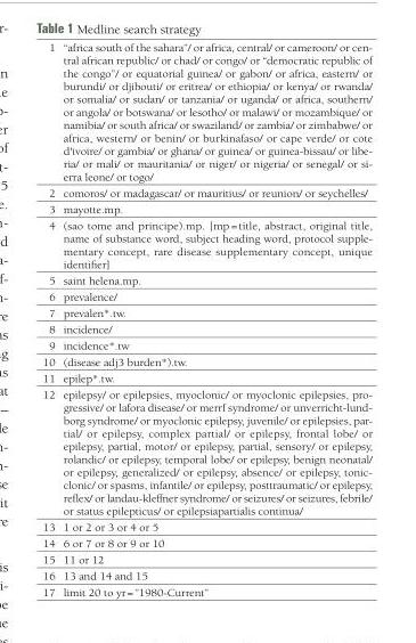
<table><tbody><tr><td>1</td><td>“africa south of the sahara”/ or africa, central/ or cameroon/ or cen- tral african republic/ or chad/ or congo/ or “democratic republic of the congo”/ or equatorial guinea/ or gabon/ or africa, eastern/ or burundi/ or djibouti/ or eritrea/ or ethiopia/ or kenya/ or rwanda/ or somalia/ or sudan/ or tanzania/ or uganda/ or africa, southern/ or angola/ or botswana/ or lesotho/ or malawi/ or mozambique/ or namibia/ or south africa/ or swaziland/ or zambia/ or zimbabwe/ or africa, western/ or benin/ or burkinafaso/ or cape verde/ or cote d&#x27;ivoire/ or gambia/ or ghana/ or guinea/ or guinea-bissau/ or libe- ria/ or mali/ or mauritania/ or niger/ or nigeria/ or senegal/ or si- erra leone/ or togo/</td></tr><tr><td>2</td><td>comoros/ or madagascar/ or mauritius/ or reunion/ or seychelles/</td></tr><tr><td>3</td><td>mayotte.mp.</td></tr><tr><td>4</td><td>(sao tome and principe).mp. [mp = title, abstract, original title, name of substance word, subject heading word, protocol supple- mentary concept, rare disease supplementary concept, unique identifier]</td></tr><tr><td>5</td><td>saint helena.mp.</td></tr><tr><td>6</td><td>prevalence/</td></tr><tr><td>7</td><td>prevalen*.tw.</td></tr><tr><td>8</td><td>incidence/</td></tr><tr><td>9</td><td>incidence*.tw</td></tr><tr><td>10</td><td>(disease adj3 burden*).tw.</td></tr><tr><td>11</td><td>epilep*.tw.</td></tr><tr><td>12</td><td>epilepsy/ or epilepsies, myoclonic/ or myoclonic epilepsies, pro- gressive/ or lafora disease/ or merrf syndrome/ or unverricht-lund- borg syndrome/ or myoclonic epilepsy, juvenile/ or epilepsies, par- tial/ or epilepsy, complex partial/ or epilepsy, frontal lobe/ or epilepsy, partial, motor/ or epilepsy, partial, sensory/ or epilepsy, rolandic/ or epilepsy, temporal lobe/ or epilepsy, benign neonatal/ or epilepsy, generalized/ or epilepsy, absence/ or epilepsy, tonic- clonic/ or spasms, infantile/ or epilepsy, posttraumatic/ or epilepsy, reflex/ or landau-kleffner syndrome/ or seizures/ or seizures, febrile/ or status epilepticus/ or epilepsiapartialis continua/</td></tr><tr><td>13</td><td>1 or 2 or 3 or 4 or 5</td></tr><tr><td>14</td><td>6 or 7 or 8 or 9 or 10</td></tr><tr><td>15</td><td>11 or 12</td></tr><tr><td>16</td><td>13 and 14 and 15</td></tr><tr><td>17</td><td>limit 20 to yr = ”1980-Current”</td></tr></tbody></table>